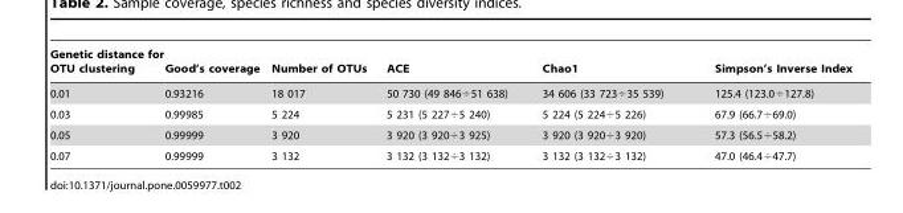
<table><thead><tr><td>Genetic distance for OTU clustering</td><td>Good’s coverage</td><td>Number of OTUs</td><td>ACE</td><td>Chao1</td><td>Simpson’s Inverse Index</td></tr></thead><tbody><tr><td>0.01</td><td>0.93216</td><td>18 017</td><td>50 730 (49 846÷51 638)</td><td>34 606 (33 723÷35 539)</td><td>125.4 (123.0÷127.8)</td></tr><tr><td>0.03</td><td>0.99985</td><td>5 224</td><td>5 231 (5 227÷5 240)</td><td>5 224 (5 224÷5 226)</td><td>67.9 (66.7÷69.0)</td></tr><tr><td>0.05</td><td>0.99999</td><td>3 920</td><td>3 920 (3 920÷3 925)</td><td>3 920 (3 920÷3 920)</td><td>57.3 (56.5÷58.2)</td></tr><tr><td>0.07</td><td>0.99999</td><td>3 132</td><td>3 132 (3 132÷3 132)</td><td>3 132 (3 132÷3 132)</td><td>47.0 (46.4÷47.7)</td></tr></tbody></table>